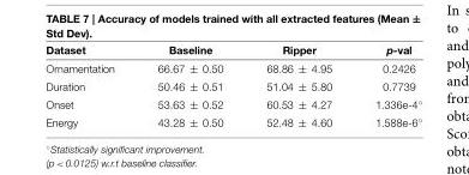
<table><thead><tr><td>Dataset</td><td>Baseline</td><td>Ripper</td><td>p-val</td></tr></thead><tbody><tr><td>Ornamentation</td><td>66.67 ± 0.50</td><td>68.86 ± 4.95</td><td>0.2426</td></tr><tr><td>Duration</td><td>50.46 ± 0.51</td><td>51.04 ± 5.80</td><td>0.7739</td></tr><tr><td>Onset</td><td>53.63 ± 0.52</td><td>60.53 ± 4.27</td><td>1.336e-4◦</td></tr><tr><td>Energy</td><td>43.28 ± 0.50</td><td>52.48 ± 4.60</td><td>1.588e-6◦</td></tr></tbody></table>